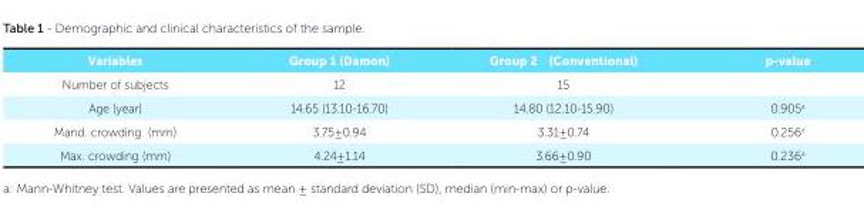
<table><tbody><tr><td>Variables</td><td>Group 1 (Damon)</td><td>Group 2 (Conventional)</td><td>p-value</td></tr><tr><td>Number of subjects</td><td>12</td><td>15</td><td></td></tr><tr><td>Age (year)</td><td>14.65 (13.10-16.70)</td><td>14.80 (12.10-15.90)</td><td>0.905<sup>a</sup></td></tr><tr><td>Mand. crowding (mm)</td><td>3.75±0.94</td><td>3.31±0.74</td><td>0.256<sup>a</sup></td></tr><tr><td>Max. crowding (mm)</td><td>4.24±1.14</td><td>3.66±0.90</td><td>0.236<sup>a</sup></td></tr></tbody></table>